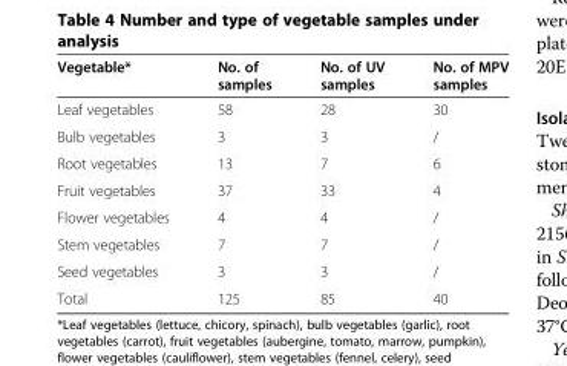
<table><thead><tr><td>Vegetable*</td><td>No. of samples</td><td>No. of UV samples</td><td>No. of MPV samples</td></tr></thead><tbody><tr><td>Leaf vegetables</td><td>58</td><td>28</td><td>30</td></tr><tr><td>Bulb vegetables</td><td>3</td><td>3</td><td>/</td></tr><tr><td>Root vegetables</td><td>13</td><td>7</td><td>6</td></tr><tr><td>Fruit vegetables</td><td>37</td><td>33</td><td>4</td></tr><tr><td>Flower vegetables</td><td>4</td><td>4</td><td>/</td></tr><tr><td>Stem vegetables</td><td>7</td><td>7</td><td>/</td></tr><tr><td>Seed vegetables</td><td>3</td><td>3</td><td>/</td></tr><tr><td>Total</td><td>125</td><td>85</td><td>40</td></tr></tbody></table>